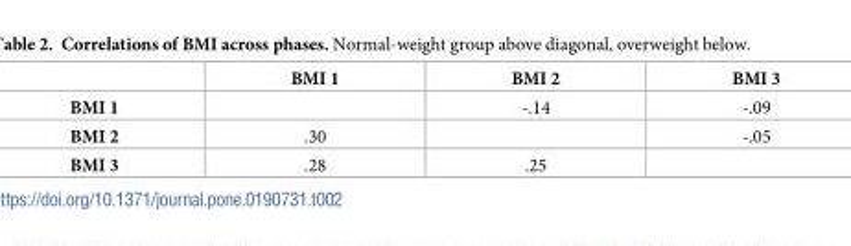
<table><thead><tr><td></td><td>BMI 1</td><td>BMI 2</td><td>BMI 3</td></tr></thead><tbody><tr><td>BMI 1</td><td></td><td>-.14</td><td>-.09</td></tr><tr><td>BMI 2</td><td>.30</td><td></td><td>-.05</td></tr><tr><td>BMI 3</td><td>.28</td><td>.25</td><td></td></tr></tbody></table>